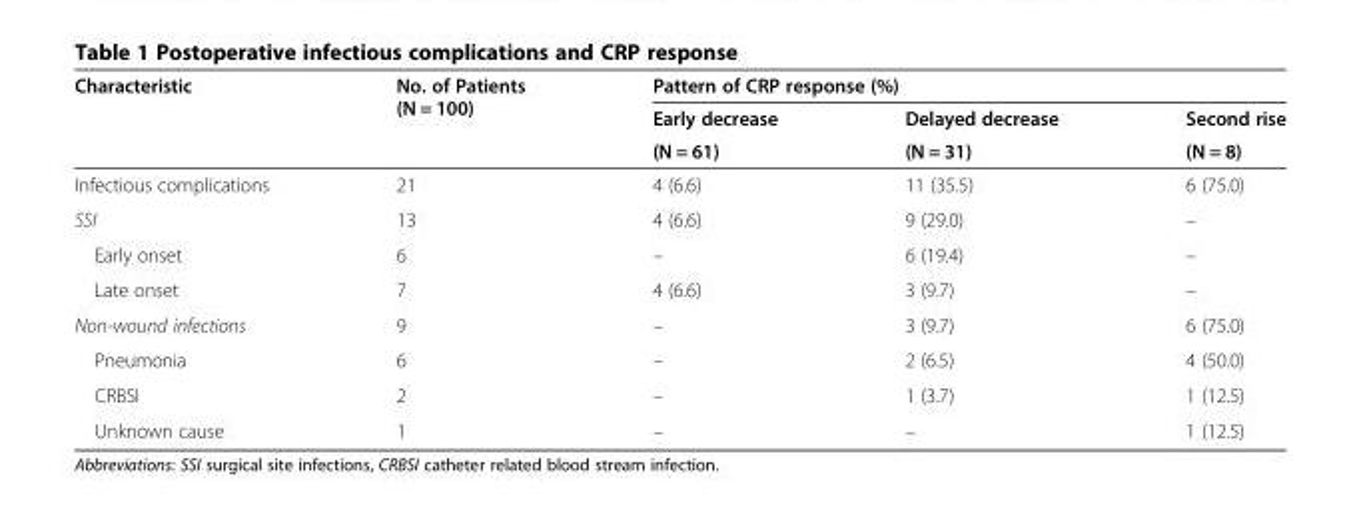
<table><thead><tr><td rowspan="3">Characteristic</td><td rowspan="3">No. of Patients (N = 100)</td><td colspan="3">Pattern of CRP response (%)</td></tr><tr><td rowspan="2">Early decrease (N = 61)</td><td rowspan="2">Delayed decrease (N = 31)</td><td rowspan="2">Second rise (N = 8)</td></tr><tr></tr></thead><tbody><tr><td>Infectious complications</td><td>21</td><td>4 (6.6)</td><td>11 (35.5)</td><td>6 (75.0)</td></tr><tr><td>SSI</td><td>13</td><td>4 (6.6)</td><td>9 (29.0)</td><td>–</td></tr><tr><td>Early onset</td><td>6</td><td>–</td><td>6 (19.4)</td><td>–</td></tr><tr><td>Late onset</td><td>7</td><td>4 (6.6)</td><td>3 (9.7)</td><td>–</td></tr><tr><td>Non-wound infections</td><td>9</td><td>–</td><td>3 (9.7)</td><td>6 (75.0)</td></tr><tr><td>Pneumonia</td><td>6</td><td>–</td><td>2 (6.5)</td><td>4 (50.0)</td></tr><tr><td>CRBSI</td><td>2</td><td>–</td><td>1 (3.7)</td><td>1 (12.5)</td></tr><tr><td>Unknown cause</td><td>1</td><td>–</td><td>–</td><td>1 (12.5)</td></tr></tbody></table>